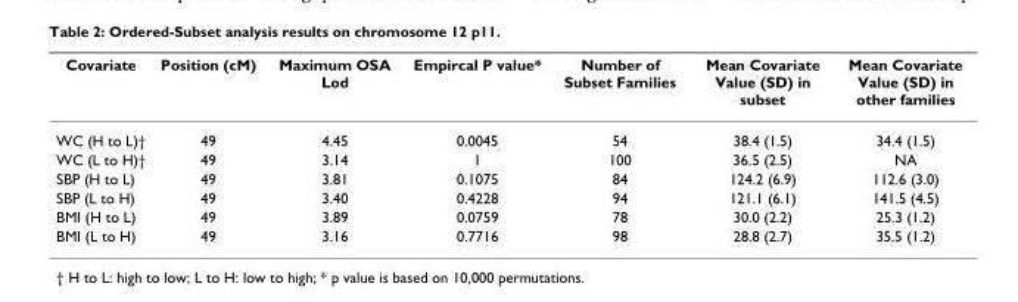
<table><thead><tr><td>Covariate</td><td>Position (cM)</td><td>Maximum OSA Lod</td><td>Empircal P value*</td><td>Number of Subset Families</td><td>Mean Covariate Value (SD) in subset</td><td>Mean Covariate Value (SD) in other families</td></tr></thead><tbody><tr><td>WC (H to L)†</td><td>49</td><td>4.45</td><td>0.0045</td><td>54</td><td>38.4 (1.5)</td><td>34.4 (1.5)</td></tr><tr><td>WC (L to H)†</td><td>49</td><td>3.14</td><td>1</td><td>100</td><td>36.5 (2.5)</td><td>NA</td></tr><tr><td>SBP (H to L)</td><td>49</td><td>3.81</td><td>0.1075</td><td>84</td><td>124.2 (6.9)</td><td>112.6 (3.0)</td></tr><tr><td>SBP (L to H)</td><td>49</td><td>3.40</td><td>0.4228</td><td>94</td><td>121.1 (6.1)</td><td>141.5 (4.5)</td></tr><tr><td>BMI (H to L)</td><td>49</td><td>3.89</td><td>0.0759</td><td>78</td><td>30.0 (2.2)</td><td>25.3 (1.2)</td></tr><tr><td>BMI (L to H)</td><td>49</td><td>3.16</td><td>0.7716</td><td>98</td><td>28.8 (2.7)</td><td>35.5 (1.2)</td></tr></tbody></table>